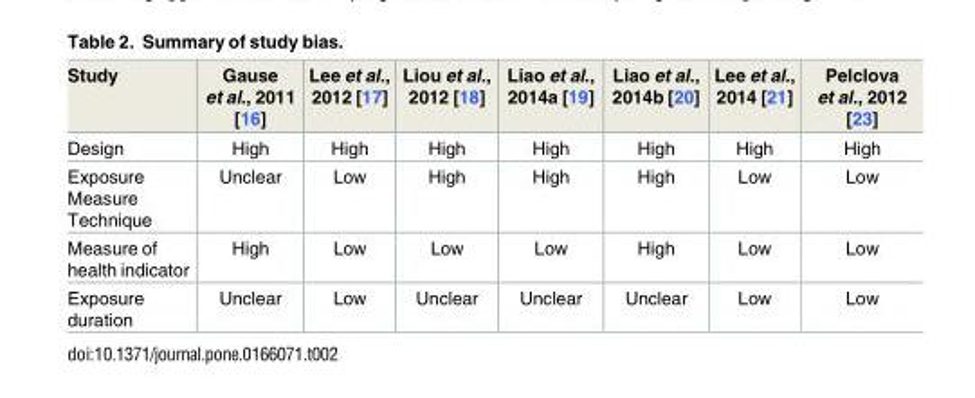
<table><thead><tr><td>Study</td><td>Gause et al., 2011 [16]</td><td>Lee et al., 2012 [17]</td><td>Liou et al., 2012 [18]</td><td>Liao et al., 2014a [19]</td><td>Liao et al., 2014b [20]</td><td>Lee et al., 2014 [21]</td><td>Pelclova et al., 2012 [23]</td></tr></thead><tbody><tr><td>Design</td><td>High</td><td>High</td><td>High</td><td>High</td><td>High</td><td>High</td><td>High</td></tr><tr><td>Exposure Measure Technique</td><td>Unclear</td><td>Low</td><td>High</td><td>High</td><td>High</td><td>Low</td><td>Low</td></tr><tr><td>Measure of health indicator</td><td>High</td><td>Low</td><td>Low</td><td>Low</td><td>High</td><td>Low</td><td>Low</td></tr><tr><td>Exposure duration</td><td>Unclear</td><td>Low</td><td>Unclear</td><td>Unclear</td><td>Unclear</td><td>Low</td><td>Low</td></tr></tbody></table>